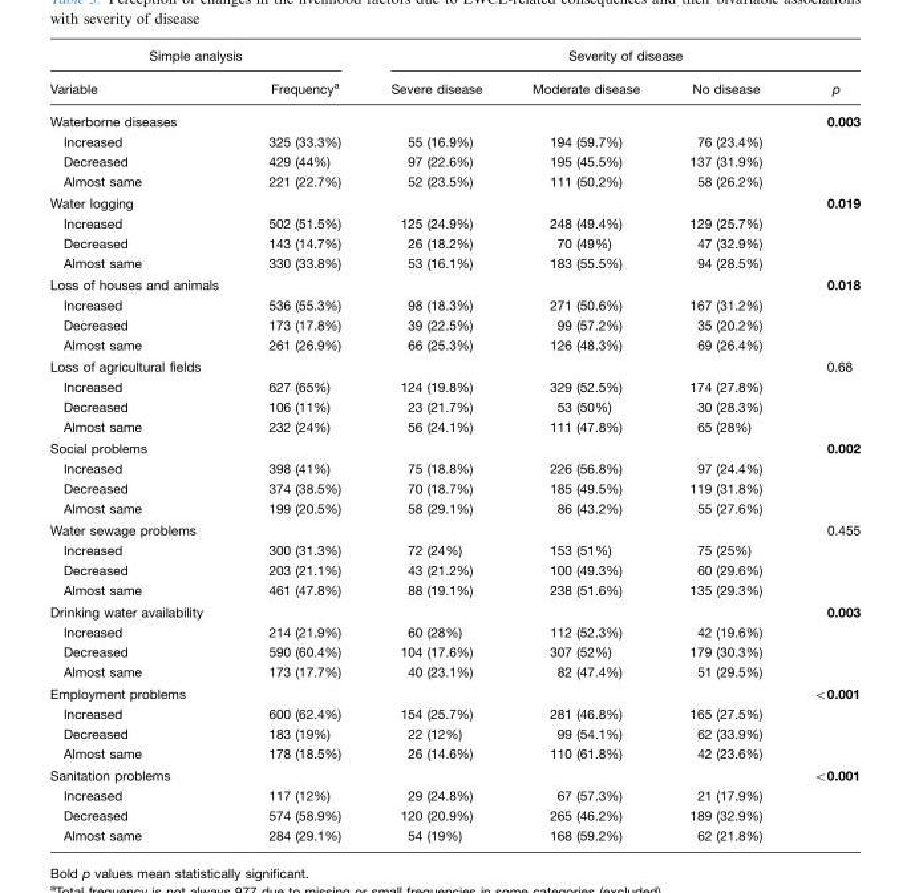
<table><thead><tr><td colspan="2">Simple analysis</td><td colspan="4">Severity of disease</td></tr><tr><td>Variable</td><td>Frequency<sup>a</sup></td><td>Severe disease</td><td>Moderate disease</td><td>No disease</td><td>p</td></tr></thead><tbody><tr><td>Waterborne diseases</td><td></td><td></td><td></td><td></td><td>0.003</td></tr><tr><td>Increased</td><td>325 (33.3%)</td><td>55 (16.9%)</td><td>194 (59.7%)</td><td>76 (23.4%)</td><td></td></tr><tr><td>Decreased</td><td>429 (44%)</td><td>97 (22.6%)</td><td>195 (45.5%)</td><td>137 (31.9%)</td><td></td></tr><tr><td>Almost same</td><td>221 (22.7%)</td><td>52 (23.5%)</td><td>111 (50.2%)</td><td>58 (26.2%)</td><td></td></tr><tr><td>Water logging</td><td></td><td></td><td></td><td></td><td>0.019</td></tr><tr><td>Increased</td><td>502 (51.5%)</td><td>125 (24.9%)</td><td>248 (49.4%)</td><td>129 (25.7%)</td><td></td></tr><tr><td>Decreased</td><td>143 (14.7%)</td><td>26 (18.2%)</td><td>70 (49%)</td><td>47 (32.9%)</td><td></td></tr><tr><td>Almost same</td><td>330 (33.8%)</td><td>53 (16.1%)</td><td>183 (55.5%)</td><td>94 (28.5%)</td><td></td></tr><tr><td>Loss of houses and animals</td><td></td><td></td><td></td><td></td><td>0.018</td></tr><tr><td>Increased</td><td>536 (55.3%)</td><td>98 (18.3%)</td><td>271 (50.6%)</td><td>167 (31.2%)</td><td></td></tr><tr><td>Decreased</td><td>173 (17.8%)</td><td>39 (22.5%)</td><td>99 (57.2%)</td><td>35 (20.2%)</td><td></td></tr><tr><td>Almost same</td><td>261 (26.9%)</td><td>66 (25.3%)</td><td>126 (48.3%)</td><td>69 (26.4%)</td><td></td></tr><tr><td>Loss of agricultural fields</td><td></td><td></td><td></td><td></td><td>0.68</td></tr><tr><td>Increased</td><td>627 (65%)</td><td>124 (19.8%)</td><td>329 (52.5%)</td><td>174 (27.8%)</td><td></td></tr><tr><td>Decreased</td><td>106 (11%)</td><td>23 (21.7%)</td><td>53 (50%)</td><td>30 (28.3%)</td><td></td></tr><tr><td>Almost same</td><td>232 (24%)</td><td>56 (24.1%)</td><td>111 (47.8%)</td><td>65 (28%)</td><td></td></tr><tr><td>Social problems</td><td></td><td></td><td></td><td></td><td>0.002</td></tr><tr><td>Increased</td><td>398 (41%)</td><td>75 (18.8%)</td><td>226 (56.8%)</td><td>97 (24.4%)</td><td></td></tr><tr><td>Decreased</td><td>374 (38.5%)</td><td>70 (18.7%)</td><td>185 (49.5%)</td><td>119 (31.8%)</td><td></td></tr><tr><td>Almost same</td><td>199 (20.5%)</td><td>58 (29.1%)</td><td>86 (43.2%)</td><td>55 (27.6%)</td><td></td></tr><tr><td>Water sewage problems</td><td></td><td></td><td></td><td></td><td>0.455</td></tr><tr><td>Increased</td><td>300 (31.3%)</td><td>72 (24%)</td><td>153 (51%)</td><td>75 (25%)</td><td></td></tr><tr><td>Decreased</td><td>203 (21.1%)</td><td>43 (21.2%)</td><td>100 (49.3%)</td><td>60 (29.6%)</td><td></td></tr><tr><td>Almost same</td><td>461 (47.8%)</td><td>88 (19.1%)</td><td>238 (51.6%)</td><td>135 (29.3%)</td><td></td></tr><tr><td>Drinking water availability</td><td></td><td></td><td></td><td></td><td>0.003</td></tr><tr><td>Increased</td><td>214 (21.9%)</td><td>60 (28%)</td><td>112 (52.3%)</td><td>42 (19.6%)</td><td></td></tr><tr><td>Decreased</td><td>590 (60.4%)</td><td>104 (17.6%)</td><td>307 (52%)</td><td>179 (30.3%)</td><td></td></tr><tr><td>Almost same</td><td>173 (17.7%)</td><td>40 (23.1%)</td><td>82 (47.4%)</td><td>51 (29.5%)</td><td></td></tr><tr><td>Employment problems</td><td></td><td></td><td></td><td></td><td>&lt;0.001</td></tr><tr><td>Increased</td><td>600 (62.4%)</td><td>154 (25.7%)</td><td>281 (46.8%)</td><td>165 (27.5%)</td><td></td></tr><tr><td>Decreased</td><td>183 (19%)</td><td>22 (12%)</td><td>99 (54.1%)</td><td>62 (33.9%)</td><td></td></tr><tr><td>Almost same</td><td>178 (18.5%)</td><td>26 (14.6%)</td><td>110 (61.8%)</td><td>42 (23.6%)</td><td></td></tr><tr><td>Sanitation problems</td><td></td><td></td><td></td><td></td><td>&lt;0.001</td></tr><tr><td>Increased</td><td>117 (12%)</td><td>29 (24.8%)</td><td>67 (57.3%)</td><td>21 (17.9%)</td><td></td></tr><tr><td>Decreased</td><td>574 (58.9%)</td><td>120 (20.9%)</td><td>265 (46.2%)</td><td>189 (32.9%)</td><td></td></tr><tr><td>Almost same</td><td>284 (29.1%)</td><td>54 (19%)</td><td>168 (59.2%)</td><td>62 (21.8%)</td><td></td></tr></tbody></table>